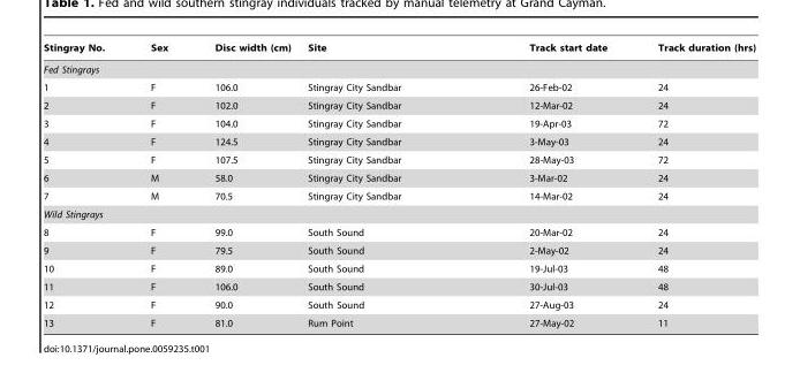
<table><thead><tr><td>Stingray No.</td><td>Sex</td><td>Disc width (cm)</td><td>Site</td><td>Track start date</td><td>Track duration (hrs)</td></tr></thead><tbody><tr><td colspan="6">Fed Stingrays</td></tr><tr><td>1</td><td>F</td><td>106.0</td><td>Stingray City Sandbar</td><td>26-Feb-02</td><td>24</td></tr><tr><td>2</td><td>F</td><td>102.0</td><td>Stingray City Sandbar</td><td>12-Mar-02</td><td>24</td></tr><tr><td>3</td><td>F</td><td>104.0</td><td>Stingray City Sandbar</td><td>19-Apr-03</td><td>72</td></tr><tr><td>4</td><td>F</td><td>124.5</td><td>Stingray City Sandbar</td><td>3-May-03</td><td>24</td></tr><tr><td>5</td><td>F</td><td>107.5</td><td>Stingray City Sandbar</td><td>28-May-03</td><td>72</td></tr><tr><td>6</td><td>M</td><td>58.0</td><td>Stingray City Sandbar</td><td>3-Mar-02</td><td>24</td></tr><tr><td>7</td><td>M</td><td>70.5</td><td>Stingray City Sandbar</td><td>14-Mar-02</td><td>24</td></tr><tr><td colspan="6">Wild Stingrays</td></tr><tr><td>8</td><td>F</td><td>99.0</td><td>South Sound</td><td>20-Mar-02</td><td>24</td></tr><tr><td>9</td><td>F</td><td>79.5</td><td>South Sound</td><td>2-May-02</td><td>24</td></tr><tr><td>10</td><td>F</td><td>89.0</td><td>South Sound</td><td>19-Jul-03</td><td>48</td></tr><tr><td>11</td><td>F</td><td>106.0</td><td>South Sound</td><td>30-Jul-03</td><td>48</td></tr><tr><td>12</td><td>F</td><td>90.0</td><td>South Sound</td><td>27-Aug-03</td><td>24</td></tr><tr><td>13</td><td>F</td><td>81.0</td><td>Rum Point</td><td>27-May-02</td><td>11</td></tr></tbody></table>